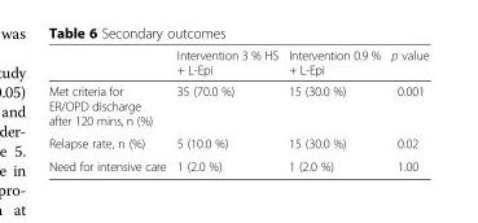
<table><thead><tr><td></td><td>Intervention 3 % HS + L-Epi</td><td>Intervention 0.9 % + L-Epi</td><td>p value</td></tr></thead><tbody><tr><td>Met criteria for ER/OPD discharge after 120 mins, n (%)</td><td>35 (70.0 %)</td><td>15 (30.0 %)</td><td>0.001</td></tr><tr><td>Relapse rate, n (%)</td><td>5 (10.0 %)</td><td>15 (30.0 %)</td><td>0.02</td></tr><tr><td>Need for intensive care</td><td>1 (2.0 %)</td><td>1 (2.0 %)</td><td>1.00</td></tr></tbody></table>